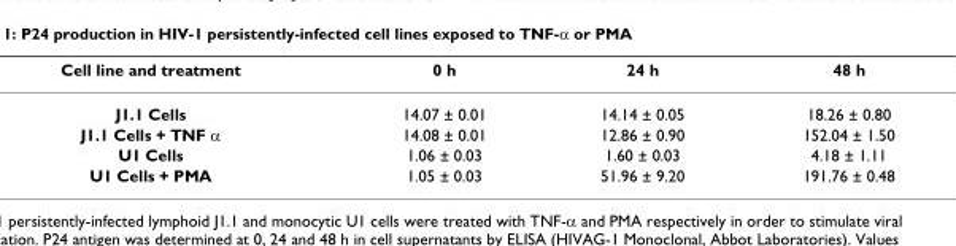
<table><thead><tr><td>Cell line and treatment</td><td>0 h</td><td>24 h</td><td>48 h</td></tr></thead><tbody><tr><td>J1.1 Cells</td><td>14.07 ± 0.01</td><td>14.14 ± 0.05</td><td>18.26 ± 0.80</td></tr><tr><td>J1.1 Cells + TNF α</td><td>14.08 ± 0.01</td><td>12.86 ± 0.90</td><td>152.04 ± 1.50</td></tr><tr><td>U1 Cells</td><td>1.06 ± 0.03</td><td>1.60 ± 0.03</td><td>4.18 ± 1.11</td></tr><tr><td>U1 Cells + PMA</td><td>1.05 ± 0.03</td><td>51.96 ± 9.20</td><td>191.76 ± 0.48</td></tr></tbody></table>